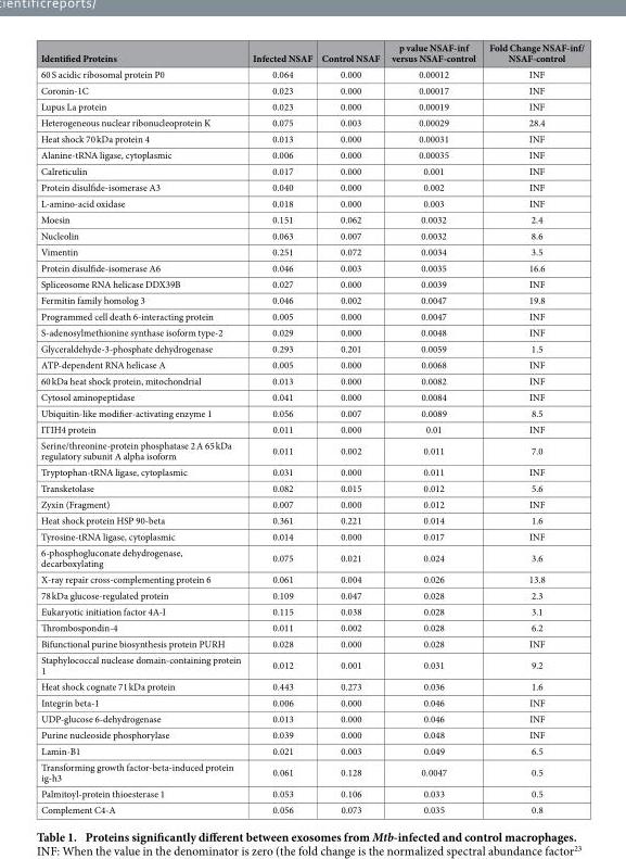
<table><thead><tr><td>Identified Proteins</td><td>Infected NSAF</td><td>Control NSAF</td><td>p value NSAF-inf versus NSAF-control</td><td>Fold Change NSAF-inf/ NSAF-control</td></tr></thead><tbody><tr><td>60 S acidic ribosomal protein P0</td><td>0.064</td><td>0.000</td><td>0.00012</td><td>INF</td></tr><tr><td>Coronin-1C</td><td>0.023</td><td>0.000</td><td>0.00017</td><td>INF</td></tr><tr><td>Lupus La protein</td><td>0.023</td><td>0.000</td><td>0.00019</td><td>INF</td></tr><tr><td>Heterogeneous nuclear ribonucleoprotein K</td><td>0.075</td><td>0.003</td><td>0.00029</td><td>28.4</td></tr><tr><td>Heat shock 70 kDa protein 4</td><td>0.013</td><td>0.000</td><td>0.00031</td><td>INF</td></tr><tr><td>Alanine-tRNA ligase, cytoplasmic</td><td>0.006</td><td>0.000</td><td>0.00035</td><td>INF</td></tr><tr><td>Calreticulin</td><td>0.017</td><td>0.000</td><td>0.001</td><td>INF</td></tr><tr><td>Protein disulfide-isomerase A3</td><td>0.040</td><td>0.000</td><td>0.002</td><td>INF</td></tr><tr><td>L-amino-acid oxidase</td><td>0.018</td><td>0.000</td><td>0.003</td><td>INF</td></tr><tr><td>Moesin</td><td>0.151</td><td>0.062</td><td>0.0032</td><td>2.4</td></tr><tr><td>Nucleolin</td><td>0.063</td><td>0.007</td><td>0.0032</td><td>8.6</td></tr><tr><td>Vimentin</td><td>0.251</td><td>0.072</td><td>0.0034</td><td>3.5</td></tr><tr><td>Protein disulfide-isomerase A6</td><td>0.046</td><td>0.003</td><td>0.0035</td><td>16.6</td></tr><tr><td>Spliceosome RNA helicase DDX39B</td><td>0.027</td><td>0.000</td><td>0.0039</td><td>INF</td></tr><tr><td>Fermitin family homolog 3</td><td>0.046</td><td>0.002</td><td>0.0047</td><td>19.8</td></tr><tr><td>Programmed cell death 6-interacting protein</td><td>0.005</td><td>0.000</td><td>0.0047</td><td>INF</td></tr><tr><td>S-adenosylmethionine synthase isoform type-2</td><td>0.029</td><td>0.000</td><td>0.0048</td><td>INF</td></tr><tr><td>Glyceraldehyde-3-phosphate dehydrogenase</td><td>0.293</td><td>0.201</td><td>0.0059</td><td>1.5</td></tr><tr><td>ATP-dependent RNA helicase A</td><td>0.005</td><td>0.000</td><td>0.0068</td><td>INF</td></tr><tr><td>60 kDa heat shock protein, mitochondrial</td><td>0.013</td><td>0.000</td><td>0.0082</td><td>INF</td></tr><tr><td>Cytosol aminopeptidase</td><td>0.041</td><td>0.000</td><td>0.0084</td><td>INF</td></tr><tr><td>Ubiquitin-like modifier-activating enzyme 1</td><td>0.056</td><td>0.007</td><td>0.0089</td><td>8.5</td></tr><tr><td>ITIH4 protein</td><td>0.011</td><td>0.000</td><td>0.01</td><td>INF</td></tr><tr><td>Serine/threonine-protein phosphatase 2 A 65 kDa regulatory subunit A alpha isoform</td><td>0.011</td><td>0.002</td><td>0.011</td><td>7.0</td></tr><tr><td>Tryptophan-tRNA ligase, cytoplasmic</td><td>0.031</td><td>0.000</td><td>0.011</td><td>INF</td></tr><tr><td>Transketolase</td><td>0.082</td><td>0.015</td><td>0.012</td><td>5.6</td></tr><tr><td>Zyxin (Fragment)</td><td>0.007</td><td>0.000</td><td>0.012</td><td>INF</td></tr><tr><td>Heat shock protein HSP 90-beta</td><td>0.361</td><td>0.221</td><td>0.014</td><td>1.6</td></tr><tr><td>Tyrosine-tRNA ligase, cytoplasmic</td><td>0.014</td><td>0.000</td><td>0.017</td><td>INF</td></tr><tr><td>6-phosphogluconate dehydrogenase, decarboxylating</td><td>0.075</td><td>0.021</td><td>0.024</td><td>3.6</td></tr><tr><td>X-ray repair cross-complementing protein 6</td><td>0.061</td><td>0.004</td><td>0.026</td><td>13.8</td></tr><tr><td>78 kDa glucose-regulated protein</td><td>0.109</td><td>0.047</td><td>0.028</td><td>2.3</td></tr><tr><td>Eukaryotic initiation factor 4A-I</td><td>0.115</td><td>0.038</td><td>0.028</td><td>3.1</td></tr><tr><td>Thrombospondin-4</td><td>0.011</td><td>0.002</td><td>0.028</td><td>6.2</td></tr><tr><td>Bifunctional purine biosynthesis protein PURH</td><td>0.028</td><td>0.000</td><td>0.028</td><td>INF</td></tr><tr><td>Staphylococcal nuclease domain-containing protein 1</td><td>0.012</td><td>0.001</td><td>0.031</td><td>9.2</td></tr><tr><td>Heat shock cognate 71 kDa protein</td><td>0.443</td><td>0.273</td><td>0.036</td><td>1.6</td></tr><tr><td>Integrin beta-1</td><td>0.006</td><td>0.000</td><td>0.046</td><td>INF</td></tr><tr><td>UDP-glucose 6-dehydrogenase</td><td>0.013</td><td>0.000</td><td>0.046</td><td>INF</td></tr><tr><td>Purine nucleoside phosphorylase</td><td>0.039</td><td>0.000</td><td>0.048</td><td>INF</td></tr><tr><td>Lamin-B1</td><td>0.021</td><td>0.003</td><td>0.049</td><td>6.5</td></tr><tr><td>Transforming growth factor-beta-induced protein ig-h3</td><td>0.061</td><td>0.128</td><td>0.0047</td><td>0.5</td></tr><tr><td>Palmitoyl-protein thioesterase 1</td><td>0.053</td><td>0.106</td><td>0.033</td><td>0.5</td></tr><tr><td>Complement C4-A</td><td>0.056</td><td>0.073</td><td>0.035</td><td>0.8</td></tr></tbody></table>